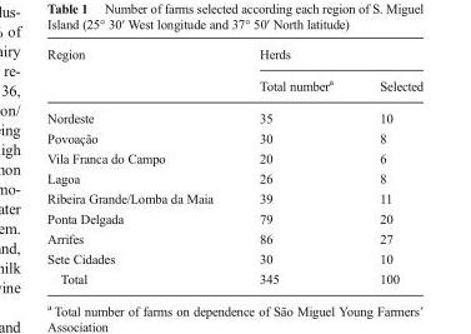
<table><thead><tr><td rowspan="2">Region</td><td colspan="2">Herds</td></tr><tr><td>Total number<sup>a</sup></td><td>Selected</td></tr></thead><tbody><tr><td>Nordeste</td><td>35</td><td>10</td></tr><tr><td>Povoação</td><td>30</td><td>8</td></tr><tr><td>Vila Franca do Campo</td><td>20</td><td>6</td></tr><tr><td>Lagoa</td><td>26</td><td>8</td></tr><tr><td>Ribeira Grande/Lomba da Maia</td><td>39</td><td>11</td></tr><tr><td>Ponta Delgada</td><td>79</td><td>20</td></tr><tr><td>Arrifes</td><td>86</td><td>27</td></tr><tr><td>Sete Cidades</td><td>30</td><td>10</td></tr><tr><td>Total</td><td>345</td><td>100</td></tr></tbody></table>